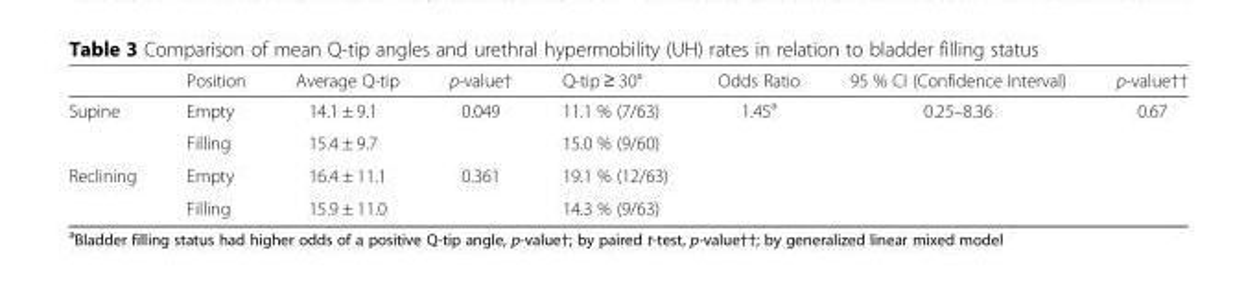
<table><thead><tr><td></td><td>Position</td><td>Average Q-tip</td><td>p-value†</td><td>Q-tip ≥ 30°</td><td>Odds Ratio</td><td>95 % CI (Confidence Interval)</td><td>p-value††</td></tr></thead><tbody><tr><td rowspan="2">Supine</td><td>Empty</td><td>14.1 ± 9.1</td><td>0.049</td><td>11.1 % (7/63)</td><td rowspan="4">1.45<sup>a</sup></td><td rowspan="4">0.25–8.36</td><td rowspan="4">0.67</td></tr><tr><td>Filling</td><td>15.4 ± 9.7</td><td></td><td>15.0 % (9/60)</td></tr><tr><td rowspan="2">Reclining</td><td>Empty</td><td>16.4 ± 11.1</td><td>0.361</td><td>19.1 % (12/63)</td></tr><tr><td>Filling</td><td>15.9 ± 11.0</td><td></td><td>14.3 % (9/63)</td></tr></tbody></table>